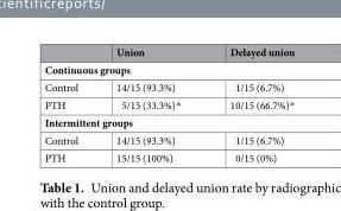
<table><thead><tr><td></td><td>Union</td><td>Delayed union</td></tr></thead><tbody><tr><td colspan="3">Continuous groups</td></tr><tr><td>Control</td><td>14/15 (93.3%)</td><td>1/15 (6.7%)</td></tr><tr><td>PTH</td><td>5/15 (33.3%)*</td><td>10/15 (66.7%)*</td></tr><tr><td colspan="3">Intermittent groups</td></tr><tr><td>Control</td><td>14/15 (93.3%)</td><td>1/15 (6.7%)</td></tr><tr><td>PTH</td><td>15/15 (100%)</td><td>0/15 (0%)</td></tr></tbody></table>